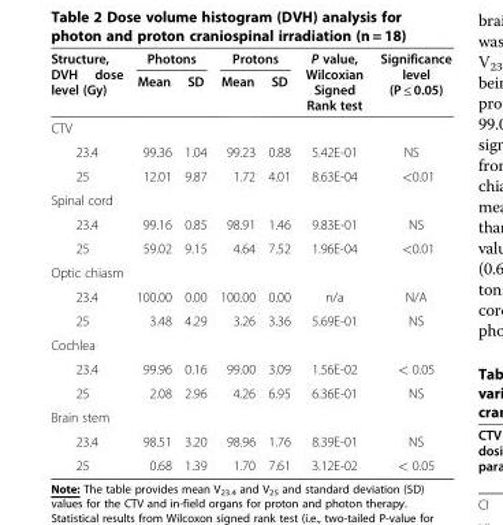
<table><thead><tr><td rowspan="2">Structure, DVH dose level (Gy)</td><td colspan="2">Photons</td><td colspan="2">Protons</td><td rowspan="2">P value, Wilcoxian Signed Rank test</td><td rowspan="2">Significance level (P ≤ 0.05)</td></tr><tr><td>Mean</td><td>SD</td><td>Mean</td><td>SD</td></tr></thead><tbody><tr><td colspan="7">CTV</td></tr><tr><td>23.4</td><td>99.36</td><td>1.04</td><td>99.23</td><td>0.88</td><td>5.42E-01</td><td>NS</td></tr><tr><td>25</td><td>12.01</td><td>9.87</td><td>1.72</td><td>4.01</td><td>8.63E-04</td><td>&lt;0.01</td></tr><tr><td colspan="7">Spinal cord</td></tr><tr><td>23.4</td><td>99.16</td><td>0.85</td><td>98.91</td><td>1.46</td><td>9.83E-01</td><td>NS</td></tr><tr><td>25</td><td>59.02</td><td>9.15</td><td>4.64</td><td>7.52</td><td>1.96E-04</td><td>&lt;0.01</td></tr><tr><td colspan="7">Optic chiasm</td></tr><tr><td>23.4</td><td>100.00</td><td>0.00</td><td>100.00</td><td>0.00</td><td>n/a</td><td>N/A</td></tr><tr><td>25</td><td>3.48</td><td>4.29</td><td>3.26</td><td>3.36</td><td>5.69E-01</td><td>NS</td></tr><tr><td colspan="7">Cochlea</td></tr><tr><td>23.4</td><td>99.96</td><td>0.16</td><td>99.00</td><td>3.09</td><td>1.56E-02</td><td>&lt; 0.05</td></tr><tr><td>25</td><td>2.08</td><td>2.96</td><td>4.26</td><td>6.95</td><td>6.36E-01</td><td>NS</td></tr><tr><td colspan="7">Brain stem</td></tr><tr><td>23.4</td><td>98.51</td><td>3.20</td><td>98.96</td><td>1.76</td><td>8.39E-01</td><td>NS</td></tr><tr><td>25</td><td>0.68</td><td>1.39</td><td>1.70</td><td>7.61</td><td>3.12E-02</td><td>&lt; 0.05</td></tr></tbody></table>